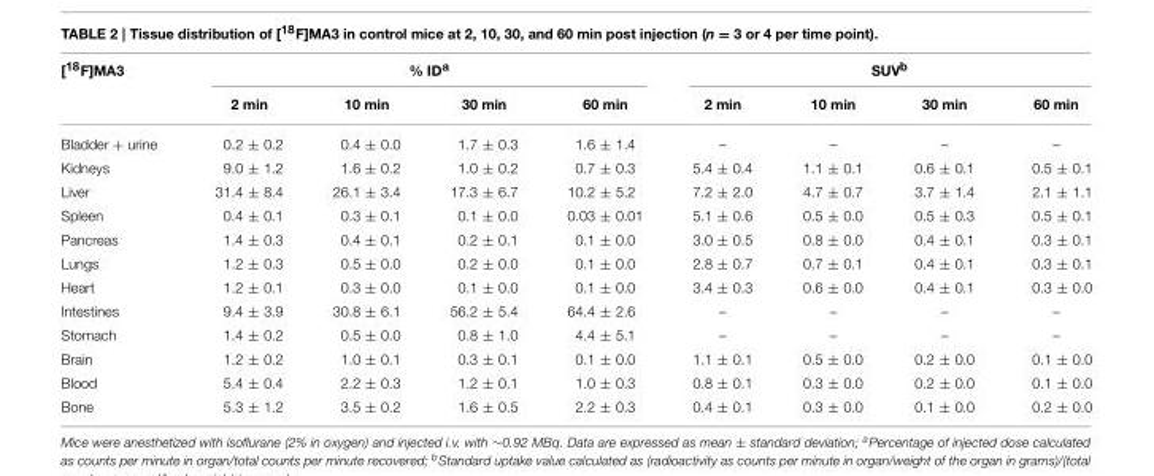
<table><thead><tr><td rowspan="2">[<sup>18</sup>F]MA3</td><td colspan="4">% ID<sup>a</sup></td><td colspan="4">SUV<sup>b</sup></td></tr><tr><td>2 min</td><td>10 min</td><td>30 min</td><td>60 min</td><td>2 min</td><td>10 min</td><td>30 min</td><td>60 min</td></tr></thead><tbody><tr><td>Bladder + urine</td><td>0.2 ± 0.2</td><td>0.4 ± 0.0</td><td>1.7 ± 0.3</td><td>1.6 ± 1.4</td><td>–</td><td>–</td><td>–</td><td>–</td></tr><tr><td>Kidneys</td><td>9.0 ± 1.2</td><td>1.6 ± 0.2</td><td>1.0 ± 0.2</td><td>0.7 ± 0.3</td><td>5.4 ± 0.4</td><td>1.1 ± 0.1</td><td>0.6 ± 0.1</td><td>0.5 ± 0.1</td></tr><tr><td>Liver</td><td>31.4 ± 8.4</td><td>26.1 ± 3.4</td><td>17.3 ± 6.7</td><td>10.2 ± 5.2</td><td>7.2 ± 2.0</td><td>4.7 ± 0.7</td><td>3.7 ± 1.4</td><td>2.1 ± 1.1</td></tr><tr><td>Spleen</td><td>0.4 ± 0.1</td><td>0.3 ± 0.1</td><td>0.1 ± 0.0</td><td>0.03 ± 0.01</td><td>5.1 ± 0.6</td><td>0.5 ± 0.0</td><td>0.5 ± 0.3</td><td>0.5 ± 0.1</td></tr><tr><td>Pancreas</td><td>1.4 ± 0.3</td><td>0.4 ± 0.1</td><td>0.2 ± 0.1</td><td>0.1 ± 0.0</td><td>3.0 ± 0.5</td><td>0.8 ± 0.0</td><td>0.4 ± 0.1</td><td>0.3 ± 0.1</td></tr><tr><td>Lungs</td><td>1.2 ± 0.3</td><td>0.5 ± 0.0</td><td>0.2 ± 0.0</td><td>0.1 ± 0.0</td><td>2.8 ± 0.7</td><td>0.7 ± 0.1</td><td>0.4 ± 0.1</td><td>0.3 ± 0.1</td></tr><tr><td>Heart</td><td>1.2 ± 0.1</td><td>0.3 ± 0.0</td><td>0.1 ± 0.0</td><td>0.1 ± 0.0</td><td>3.4 ± 0.3</td><td>0.6 ± 0.0</td><td>0.4 ± 0.1</td><td>0.3 ± 0.0</td></tr><tr><td>Intestines</td><td>9.4 ± 3.9</td><td>30.8 ± 6.1</td><td>56.2 ± 5.4</td><td>64.4 ± 2.6</td><td>–</td><td>–</td><td>–</td><td>–</td></tr><tr><td>Stomach</td><td>1.4 ± 0.2</td><td>0.5 ± 0.0</td><td>0.8 ± 1.0</td><td>4.4 ± 5.1</td><td>–</td><td>–</td><td>–</td><td>–</td></tr><tr><td>Brain</td><td>1.2 ± 0.2</td><td>1.0 ± 0.1</td><td>0.3 ± 0.1</td><td>0.1 ± 0.0</td><td>1.1 ± 0.1</td><td>0.5 ± 0.0</td><td>0.2 ± 0.0</td><td>0.1 ± 0.0</td></tr><tr><td>Blood</td><td>5.4 ± 0.4</td><td>2.2 ± 0.3</td><td>1.2 ± 0.1</td><td>1.0 ± 0.3</td><td>0.8 ± 0.1</td><td>0.3 ± 0.0</td><td>0.2 ± 0.0</td><td>0.1 ± 0.0</td></tr><tr><td>Bone</td><td>5.3 ± 1.2</td><td>3.5 ± 0.2</td><td>1.6 ± 0.5</td><td>2.2 ± 0.3</td><td>0.4 ± 0.1</td><td>0.3 ± 0.0</td><td>0.1 ± 0.0</td><td>0.2 ± 0.0</td></tr></tbody></table>